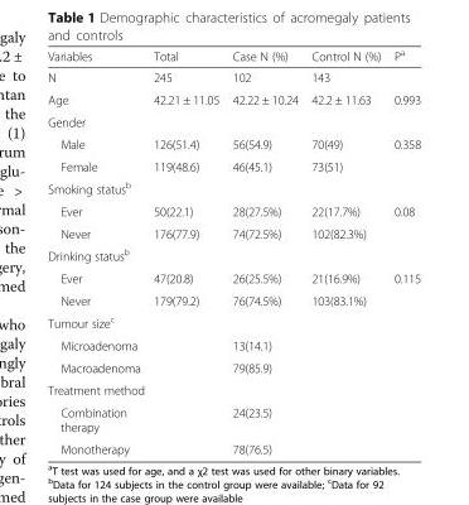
<table><thead><tr><td>Variables</td><td>Total</td><td>Case N (%)</td><td>Control N (%)</td><td>P<sup>a</sup></td></tr></thead><tbody><tr><td>N</td><td>245</td><td>102</td><td>143</td><td></td></tr><tr><td>Age</td><td>42.21 ± 11.05</td><td>42.22 ± 10.24</td><td>42.2 ± 11.63</td><td>0.993</td></tr><tr><td colspan="5">Gender</td></tr><tr><td>Male</td><td>126(51.4)</td><td>56(54.9)</td><td>70(49)</td><td>0.358</td></tr><tr><td>Female</td><td>119(48.6)</td><td>46(45.1)</td><td>73(51)</td><td></td></tr><tr><td colspan="5">Smoking status<sup>b</sup></td></tr><tr><td>Ever</td><td>50(22.1)</td><td>28(27.5%)</td><td>22(17.7%)</td><td>0.08</td></tr><tr><td>Never</td><td>176(77.9)</td><td>74(72.5%)</td><td>102(82.3%)</td><td></td></tr><tr><td colspan="5">Drinking status<sup>b</sup></td></tr><tr><td>Ever</td><td>47(20.8)</td><td>26(25.5%)</td><td>21(16.9%)</td><td>0.115</td></tr><tr><td>Never</td><td>179(79.2)</td><td>76(74.5%)</td><td>103(83.1%)</td><td></td></tr><tr><td colspan="5">Tumour size<sup>c</sup></td></tr><tr><td>Microadenoma</td><td></td><td>13(14.1)</td><td></td><td></td></tr><tr><td>Macroadenoma</td><td></td><td>79(85.9)</td><td></td><td></td></tr><tr><td colspan="5">Treatment method</td></tr><tr><td>Combination therapy</td><td></td><td>24(23.5)</td><td></td><td></td></tr><tr><td>Monotherapy</td><td></td><td>78(76.5)</td><td></td><td></td></tr></tbody></table>